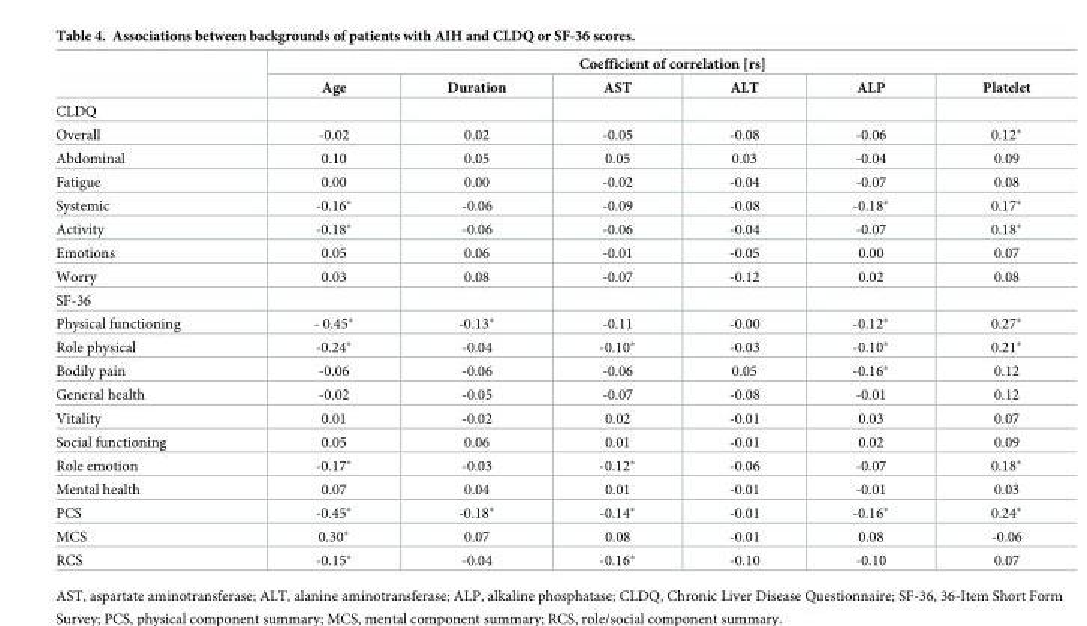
<table><thead><tr><td rowspan="2"></td><td colspan="6">Coefficient of correlation [rs]</td></tr><tr><td>Age</td><td>Duration</td><td>AST</td><td>ALT</td><td>ALP</td><td>Platelet</td></tr></thead><tbody><tr><td colspan="7">CLDQ</td></tr><tr><td>Overall</td><td>-0.02</td><td>0.02</td><td>-0.05</td><td>-0.08</td><td>-0.06</td><td>0.12*</td></tr><tr><td>Abdominal</td><td>0.10</td><td>0.05</td><td>0.05</td><td>0.03</td><td>-0.04</td><td>0.09</td></tr><tr><td>Fatigue</td><td>0.00</td><td>0.00</td><td>-0.02</td><td>-0.04</td><td>-0.07</td><td>0.08</td></tr><tr><td>Systemic</td><td>-0.16*</td><td>-0.06</td><td>-0.09</td><td>-0.08</td><td>-0.18*</td><td>0.17*</td></tr><tr><td>Activity</td><td>-0.18*</td><td>-0.06</td><td>-0.06</td><td>-0.04</td><td>-0.07</td><td>0.18*</td></tr><tr><td>Emotions</td><td>0.05</td><td>0.06</td><td>-0.01</td><td>-0.05</td><td>0.00</td><td>0.07</td></tr><tr><td>Worry</td><td>0.03</td><td>0.08</td><td>-0.07</td><td>-0.12</td><td>0.02</td><td>0.08</td></tr><tr><td colspan="7">SF-36</td></tr><tr><td>Physical functioning</td><td>- 0.45*</td><td>-0.13*</td><td>-0.11</td><td>-0.00</td><td>-0.12*</td><td>0.27*</td></tr><tr><td>Role physical</td><td>-0.24*</td><td>-0.04</td><td>-0.10*</td><td>-0.03</td><td>-0.10*</td><td>0.21*</td></tr><tr><td>Bodily pain</td><td>-0.06</td><td>-0.06</td><td>-0.06</td><td>0.05</td><td>-0.16*</td><td>0.12</td></tr><tr><td>General health</td><td>-0.02</td><td>-0.05</td><td>-0.07</td><td>-0.08</td><td>-0.01</td><td>0.12</td></tr><tr><td>Vitality</td><td>0.01</td><td>-0.02</td><td>0.02</td><td>-0.01</td><td>0.03</td><td>0.07</td></tr><tr><td>Social functioning</td><td>0.05</td><td>0.06</td><td>0.01</td><td>-0.01</td><td>0.02</td><td>0.09</td></tr><tr><td>Role emotion</td><td>-0.17*</td><td>-0.03</td><td>-0.12*</td><td>-0.06</td><td>-0.07</td><td>0.18*</td></tr><tr><td>Mental health</td><td>0.07</td><td>0.04</td><td>0.01</td><td>-0.01</td><td>-0.01</td><td>0.03</td></tr><tr><td>PCS</td><td>-0.45*</td><td>-0.18*</td><td>-0.14*</td><td>-0.01</td><td>-0.16*</td><td>0.24*</td></tr><tr><td>MCS</td><td>0.30*</td><td>0.07</td><td>0.08</td><td>-0.01</td><td>0.08</td><td>-0.06</td></tr><tr><td>RCS</td><td>-0.15*</td><td>-0.04</td><td>-0.16*</td><td>-0.10</td><td>-0.10</td><td>0.07</td></tr></tbody></table>